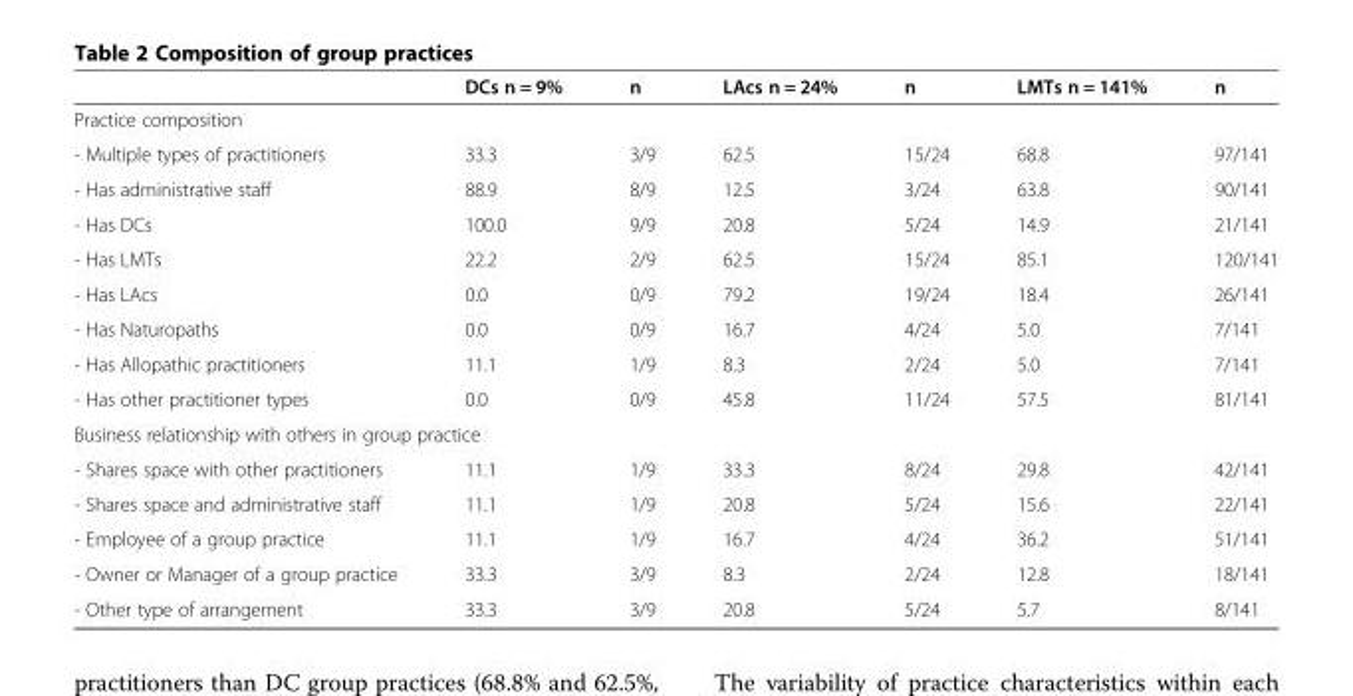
<table><thead><tr><td></td><td>DCs n = 9%</td><td>n</td><td>LAcs n = 24%</td><td>n</td><td>LMTs n = 141%</td><td>n</td></tr></thead><tbody><tr><td colspan="7">Practice composition</td></tr><tr><td>- Multiple types of practitioners</td><td>33.3</td><td>3/9</td><td>62.5</td><td>15/24</td><td>68.8</td><td>97/141</td></tr><tr><td>- Has administrative staff</td><td>88.9</td><td>8/9</td><td>12.5</td><td>3/24</td><td>63.8</td><td>90/141</td></tr><tr><td>- Has DCs</td><td>100.0</td><td>9/9</td><td>20.8</td><td>5/24</td><td>14.9</td><td>21/141</td></tr><tr><td>- Has LMTs</td><td>22.2</td><td>2/9</td><td>62.5</td><td>15/24</td><td>85.1</td><td>120/141</td></tr><tr><td>- Has LAcs</td><td>0.0</td><td>0/9</td><td>79.2</td><td>19/24</td><td>18.4</td><td>26/141</td></tr><tr><td>- Has Naturopaths</td><td>0.0</td><td>0/9</td><td>16.7</td><td>4/24</td><td>5.0</td><td>7/141</td></tr><tr><td>- Has Allopathic practitioners</td><td>11.1</td><td>1/9</td><td>8.3</td><td>2/24</td><td>5.0</td><td>7/141</td></tr><tr><td>- Has other practitioner types</td><td>0.0</td><td>0/9</td><td>45.8</td><td>11/24</td><td>57.5</td><td>81/141</td></tr><tr><td colspan="7">Business relationship with others in group practice</td></tr><tr><td>- Shares space with other practitioners</td><td>11.1</td><td>1/9</td><td>33.3</td><td>8/24</td><td>29.8</td><td>42/141</td></tr><tr><td>- Shares space and administrative staff</td><td>11.1</td><td>1/9</td><td>20.8</td><td>5/24</td><td>15.6</td><td>22/141</td></tr><tr><td>- Employee of a group practice</td><td>11.1</td><td>1/9</td><td>16.7</td><td>4/24</td><td>36.2</td><td>51/141</td></tr><tr><td>- Owner or Manager of a group practice</td><td>33.3</td><td>3/9</td><td>8.3</td><td>2/24</td><td>12.8</td><td>18/141</td></tr><tr><td>- Other type of arrangement</td><td>33.3</td><td>3/9</td><td>20.8</td><td>5/24</td><td>5.7</td><td>8/141</td></tr></tbody></table>